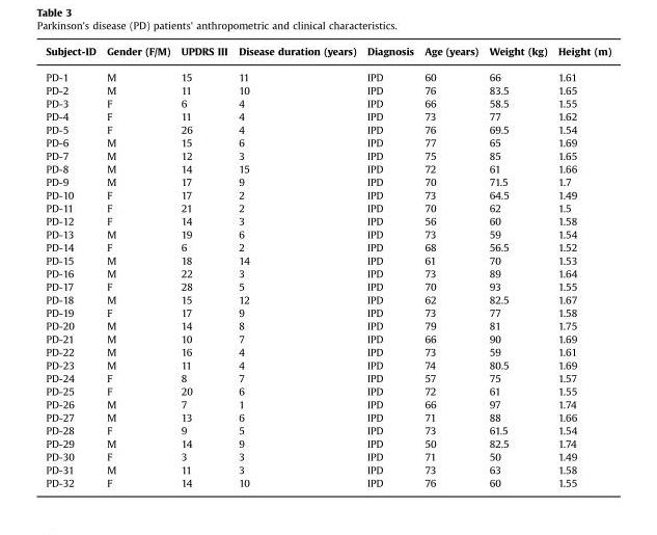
<table><thead><tr><td>Subject-ID</td><td>Gender (F/M)</td><td>UPDRS III</td><td>Disease duration (years)</td><td>Diagnosis</td><td>Age (years)</td><td>Weight (kg)</td><td>Height (m)</td></tr></thead><tbody><tr><td>PD-1</td><td>M</td><td>15</td><td>11</td><td>IPD</td><td>60</td><td>66</td><td>1.61</td></tr><tr><td>PD-2</td><td>M</td><td>11</td><td>10</td><td>IPD</td><td>76</td><td>83.5</td><td>1.65</td></tr><tr><td>PD-3</td><td>F</td><td>6</td><td>4</td><td>IPD</td><td>66</td><td>58.5</td><td>1.55</td></tr><tr><td>PD-4</td><td>F</td><td>11</td><td>4</td><td>IPD</td><td>73</td><td>77</td><td>1.62</td></tr><tr><td>PD-5</td><td>F</td><td>26</td><td>4</td><td>IPD</td><td>76</td><td>69.5</td><td>1.54</td></tr><tr><td>PD-6</td><td>M</td><td>15</td><td>6</td><td>IPD</td><td>77</td><td>65</td><td>1.69</td></tr><tr><td>PD-7</td><td>M</td><td>12</td><td>3</td><td>IPD</td><td>75</td><td>85</td><td>1.65</td></tr><tr><td>PD-8</td><td>M</td><td>14</td><td>15</td><td>IPD</td><td>72</td><td>61</td><td>1.66</td></tr><tr><td>PD-9</td><td>M</td><td>17</td><td>9</td><td>IPD</td><td>70</td><td>71.5</td><td>1.7</td></tr><tr><td>PD-10</td><td>F</td><td>17</td><td>2</td><td>IPD</td><td>73</td><td>64.5</td><td>1.49</td></tr><tr><td>PD-11</td><td>F</td><td>21</td><td>2</td><td>IPD</td><td>70</td><td>62</td><td>1.5</td></tr><tr><td>PD-12</td><td>F</td><td>14</td><td>3</td><td>IPD</td><td>56</td><td>60</td><td>1.58</td></tr><tr><td>PD-13</td><td>M</td><td>19</td><td>6</td><td>IPD</td><td>73</td><td>59</td><td>1.54</td></tr><tr><td>PD-14</td><td>F</td><td>6</td><td>2</td><td>IPD</td><td>68</td><td>56.5</td><td>1.52</td></tr><tr><td>PD-15</td><td>M</td><td>18</td><td>14</td><td>IPD</td><td>61</td><td>70</td><td>1.53</td></tr><tr><td>PD-16</td><td>M</td><td>22</td><td>3</td><td>IPD</td><td>73</td><td>89</td><td>1.64</td></tr><tr><td>PD-17</td><td>F</td><td>28</td><td>5</td><td>IPD</td><td>70</td><td>93</td><td>1.55</td></tr><tr><td>PD-18</td><td>M</td><td>15</td><td>12</td><td>IPD</td><td>62</td><td>82.5</td><td>1.67</td></tr><tr><td>PD-19</td><td>F</td><td>17</td><td>9</td><td>IPD</td><td>73</td><td>77</td><td>1.58</td></tr><tr><td>PD-20</td><td>M</td><td>14</td><td>8</td><td>IPD</td><td>79</td><td>81</td><td>1.75</td></tr><tr><td>PD-21</td><td>M</td><td>10</td><td>7</td><td>IPD</td><td>66</td><td>90</td><td>1.69</td></tr><tr><td>PD-22</td><td>M</td><td>16</td><td>4</td><td>IPD</td><td>73</td><td>59</td><td>1.61</td></tr><tr><td>PD-23</td><td>M</td><td>11</td><td>4</td><td>IPD</td><td>74</td><td>80.5</td><td>1.69</td></tr><tr><td>PD-24</td><td>F</td><td>8</td><td>7</td><td>IPD</td><td>57</td><td>75</td><td>1.57</td></tr><tr><td>PD-25</td><td>F</td><td>20</td><td>6</td><td>IPD</td><td>72</td><td>61</td><td>1.55</td></tr><tr><td>PD-26</td><td>M</td><td>7</td><td>1</td><td>IPD</td><td>66</td><td>97</td><td>1.74</td></tr><tr><td>PD-27</td><td>M</td><td>13</td><td>6</td><td>IPD</td><td>71</td><td>88</td><td>1.66</td></tr><tr><td>PD-28</td><td>F</td><td>9</td><td>5</td><td>IPD</td><td>73</td><td>61.5</td><td>1.54</td></tr><tr><td>PD-29</td><td>M</td><td>14</td><td>9</td><td>IPD</td><td>50</td><td>82.5</td><td>1.74</td></tr><tr><td>PD-30</td><td>F</td><td>3</td><td>3</td><td>IPD</td><td>71</td><td>50</td><td>1.49</td></tr><tr><td>PD-31</td><td>M</td><td>11</td><td>3</td><td>IPD</td><td>73</td><td>63</td><td>1.58</td></tr><tr><td>PD-32</td><td>F</td><td>14</td><td>10</td><td>IPD</td><td>76</td><td>60</td><td>1.55</td></tr></tbody></table>